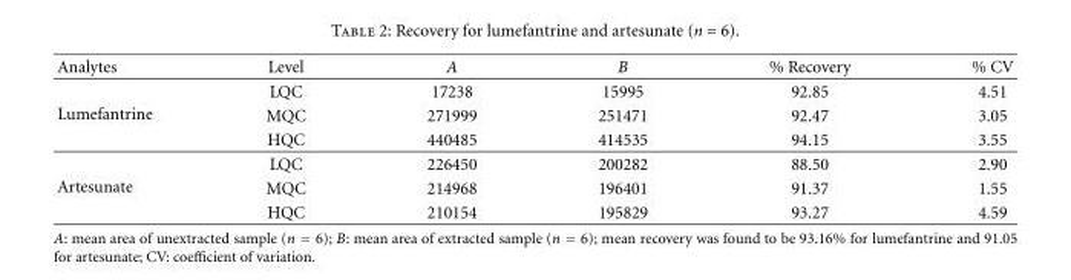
<table><thead><tr><td>Analytes</td><td>Level</td><td>A</td><td>B</td><td>% Recovery</td><td>% CV</td></tr></thead><tbody><tr><td rowspan="3">Lumefantrine</td><td>LQC</td><td>17238</td><td>15995</td><td>92.85</td><td>4.51</td></tr><tr><td>MQC</td><td>271999</td><td>251471</td><td>92.47</td><td>3.05</td></tr><tr><td>HQC</td><td>440485</td><td>414535</td><td>94.15</td><td>3.55</td></tr><tr><td rowspan="3">Artesunate</td><td>LQC</td><td>226450</td><td>200282</td><td>88.50</td><td>2.90</td></tr><tr><td>MQC</td><td>214968</td><td>196401</td><td>91.37</td><td>1.55</td></tr><tr><td>HQC</td><td>210154</td><td>195829</td><td>93.27</td><td>4.59</td></tr></tbody></table>